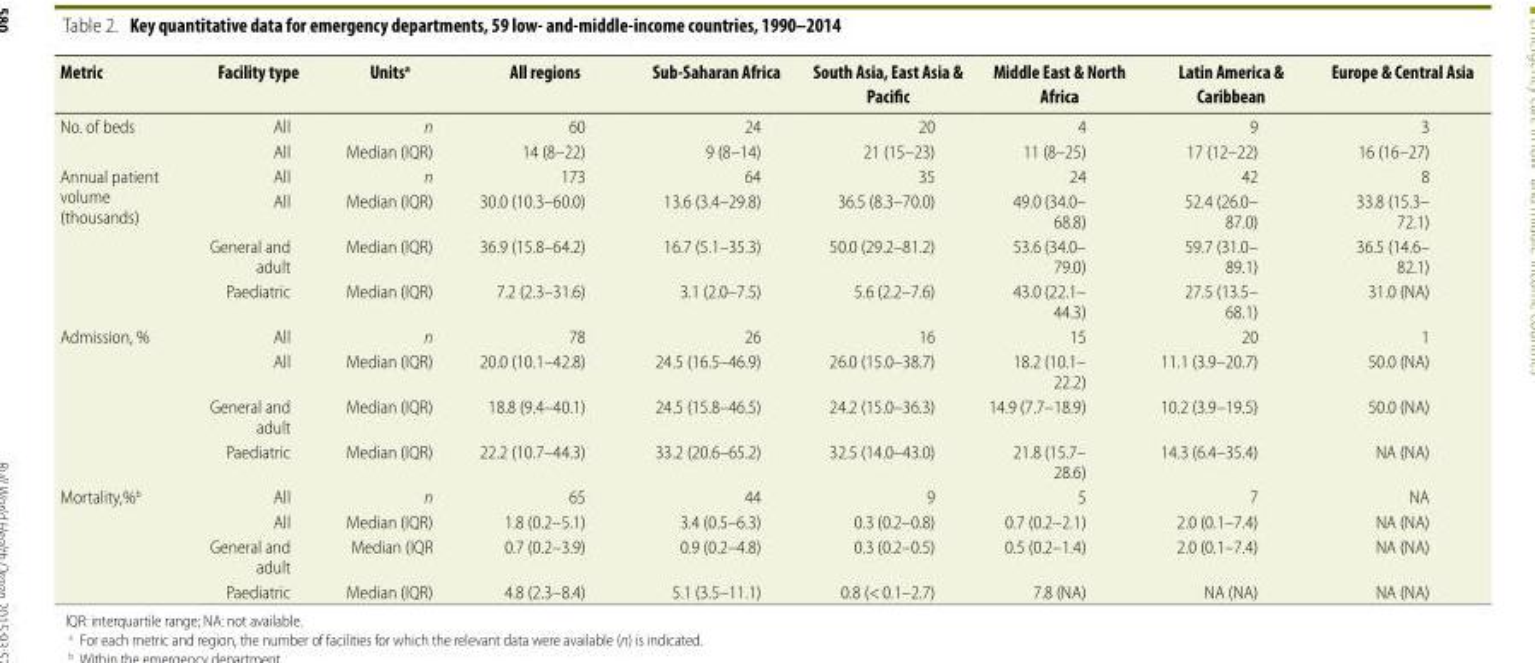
<table><thead><tr><td>Metric</td><td>Facility type</td><td>Units<sup>a</sup></td><td>All regions</td><td>Sub-Saharan Africa</td><td>South Asia, East Asia &amp; Pacific</td><td>Middle East &amp; North Africa</td><td>Latin America &amp; Caribbean</td><td>Europe &amp; Central Asia</td></tr></thead><tbody><tr><td rowspan="2">No. of beds</td><td>All</td><td>n</td><td>60</td><td>24</td><td>20</td><td>4</td><td>9</td><td>3</td></tr><tr><td>All</td><td>Median (IQR)</td><td>14 (8–22)</td><td>9 (8–14)</td><td>21 (15–23)</td><td>11 (8–25)</td><td>17 (12–22)</td><td>16 (16–27)</td></tr><tr><td rowspan="4">Annual patient volume (thousands)</td><td>All</td><td>n</td><td>173</td><td>64</td><td>35</td><td>24</td><td>42</td><td>8</td></tr><tr><td>All</td><td>Median (IQR)</td><td>30.0 (10.3–60.0)</td><td>13.6 (3.4–29.8)</td><td>36.5 (8.3–70.0)</td><td>49.0 (34.0– 68.8)</td><td>52.4 (26.0– 87.0)</td><td>33.8 (15.3– 72.1)</td></tr><tr><td>General and adult</td><td>Median (IQR)</td><td>36.9 (15.8–64.2)</td><td>16.7 (5.1–35.3)</td><td>50.0 (29.2–81.2)</td><td>53.6 (34.0– 79.0)</td><td>59.7 (31.0– 89.1)</td><td>36.5 (14.6– 82.1)</td></tr><tr><td>Paediatric</td><td>Median (IQR)</td><td>7.2 (2.3–31.6)</td><td>3.1 (2.0–7.5)</td><td>5.6 (2.2–7.6)</td><td>43.0 (22.1– 44.3)</td><td>27.5 (13.5– 68.1)</td><td>31.0 (NA)</td></tr><tr><td rowspan="4">Admission, %</td><td>All</td><td>n</td><td>78</td><td>26</td><td>16</td><td>15</td><td>20</td><td>1</td></tr><tr><td>All</td><td>Median (IQR)</td><td>20.0 (10.1–42.8)</td><td>24.5 (16.5–46.9)</td><td>26.0 (15.0–38.7)</td><td>18.2 (10.1– 22.2)</td><td>11.1 (3.9–20.7)</td><td>50.0 (NA)</td></tr><tr><td>General and adult</td><td>Median (IQR)</td><td>18.8 (9.4–40.1)</td><td>24.5 (15.8–46.5)</td><td>24.2 (15.0–36.3)</td><td>14.9 (7.7–18.9)</td><td>10.2 (3.9–19.5)</td><td>50.0 (NA)</td></tr><tr><td>Paediatric</td><td>Median (IQR)</td><td>22.2 (10.7–44.3)</td><td>33.2 (20.6–65.2)</td><td>32.5 (14.0–43.0)</td><td>21.8 (15.7– 28.6)</td><td>14.3 (6.4–35.4)</td><td>NA (NA)</td></tr><tr><td rowspan="4">Mortality,%<sup>b</sup></td><td>All</td><td>n</td><td>65</td><td>44</td><td>9</td><td>5</td><td>7</td><td>NA</td></tr><tr><td>All</td><td>Median (IQR)</td><td>1.8 (0.2–5.1)</td><td>3.4 (0.5–6.3)</td><td>0.3 (0.2–0.8)</td><td>0.7 (0.2–2.1)</td><td>2.0 (0.1–7.4)</td><td>NA (NA)</td></tr><tr><td>General and adult</td><td>Median (IQR</td><td>0.7 (0.2–3.9)</td><td>0.9 (0.2–4.8)</td><td>0.3 (0.2–0.5)</td><td>0.5 (0.2–1.4)</td><td>2.0 (0.1–7.4)</td><td>NA (NA)</td></tr><tr><td>Paediatric</td><td>Median (IQR)</td><td>4.8 (2.3–8.4)</td><td>5.1 (3.5–11.1)</td><td>0.8 (&lt; 0.1–2.7)</td><td>7.8 (NA)</td><td>NA (NA)</td><td>NA (NA)</td></tr></tbody></table>